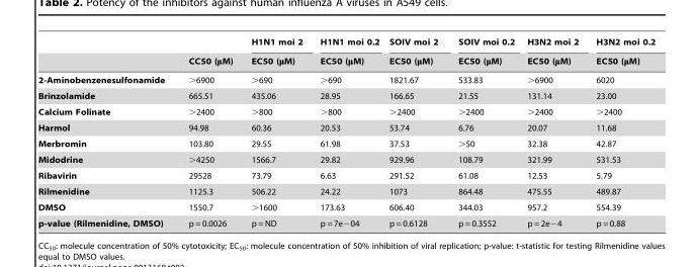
<table><thead><tr><td rowspan="2"></td><td rowspan="2">CC50 (μM)</td><td rowspan="2">H1N1 moi 2 EC50 (μM)</td><td rowspan="2">H1N1 moi 0.2 EC50 (μM)</td><td rowspan="2">SOIV moi 2 EC50 (μM)</td><td rowspan="2">SOIV moi 0.2 EC50 (μM)</td><td rowspan="2">H3N2 moi 2 EC50 (μM)</td><td rowspan="2">H3N2 moi 0.2 EC50 (μM)</td></tr><tr></tr></thead><tbody><tr><td>2-Aminobenzenesulfonamide</td><td>&gt;6900</td><td>&gt;690</td><td>&gt;690</td><td>1821.67</td><td>533.83</td><td>&gt;6900</td><td>6020</td></tr><tr><td>Brinzolamide</td><td>665.51</td><td>435.06</td><td>28.95</td><td>166.65</td><td>21.55</td><td>131.14</td><td>23.00</td></tr><tr><td>Calcium Folinate</td><td>&gt;2400</td><td>&gt;800</td><td>&gt;800</td><td>&gt;2400</td><td>&gt;2400</td><td>&gt;2400</td><td>&gt;2400</td></tr><tr><td>Harmol</td><td>94.98</td><td>60.36</td><td>20.53</td><td>53.74</td><td>6.76</td><td>20.07</td><td>11.68</td></tr><tr><td>Merbromin</td><td>103.80</td><td>29.55</td><td>61.98</td><td>37.53</td><td>&gt;50</td><td>32.38</td><td>42.87</td></tr><tr><td>Midodrine</td><td>&gt;4250</td><td>1566.7</td><td>29.82</td><td>929.96</td><td>108.79</td><td>321.99</td><td>531.53</td></tr><tr><td>Ribavirin</td><td>29528</td><td>73.79</td><td>6.63</td><td>291.52</td><td>61.08</td><td>12.53</td><td>5.79</td></tr><tr><td>Rilmenidine</td><td>1125.3</td><td>506.22</td><td>24.22</td><td>1073</td><td>864.48</td><td>475.55</td><td>489.87</td></tr><tr><td>DMSO</td><td>1550.7</td><td>&gt;1600</td><td>173.63</td><td>606.40</td><td>344.03</td><td>957.2</td><td>554.39</td></tr><tr><td>p-value (Rilmenidine, DMSO)</td><td>p = 0.0026</td><td>p = ND</td><td>p = 7e−04</td><td>p = 0.6128</td><td>p = 0.3552</td><td>p = 2e−4</td><td>p = 0.88</td></tr></tbody></table>